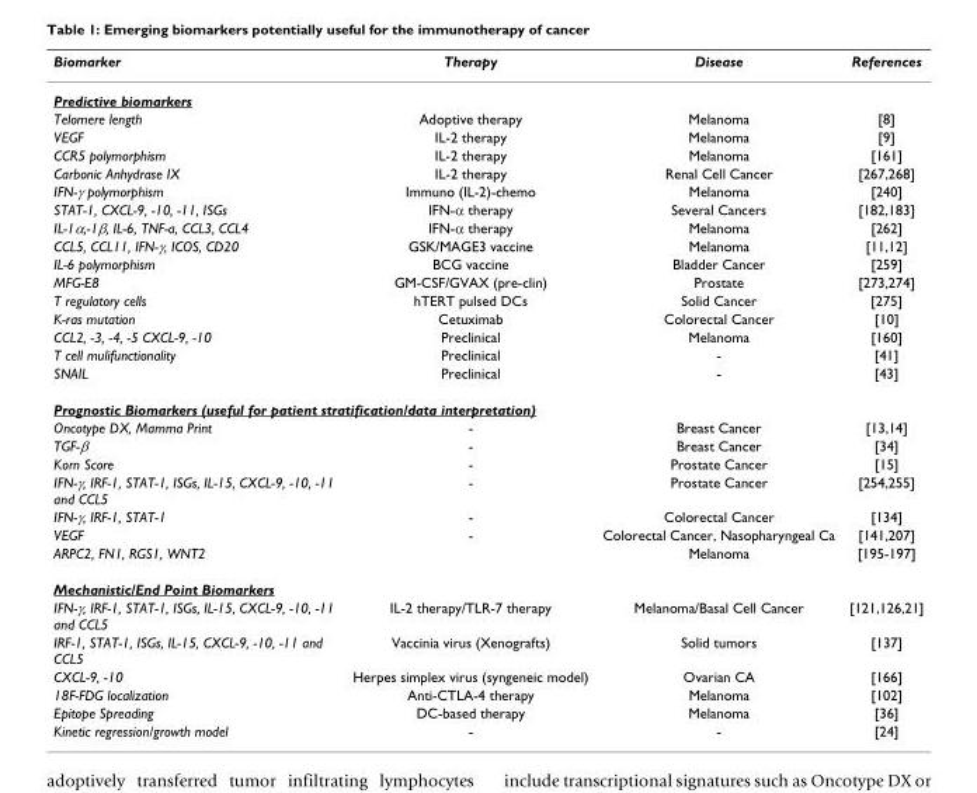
<table><thead><tr><td>Biomarker</td><td>Therapy</td><td>Disease</td><td>References</td></tr></thead><tbody><tr><td colspan="4">Predictive biomarkers</td></tr><tr><td>Telomere length</td><td>Adoptive therapy</td><td>Melanoma</td><td>[8]</td></tr><tr><td>VEGF</td><td>IL-2 therapy</td><td>Melanoma</td><td>[9]</td></tr><tr><td>CCR5 polymorphism</td><td>IL-2 therapy</td><td>Melanoma</td><td>[161]</td></tr><tr><td>Carbonic Anhydrase IX</td><td>IL-2 therapy</td><td>Renal Cell Cancer</td><td>[267,268]</td></tr><tr><td>IFN-γ polymorphism</td><td>Immuno (IL-2)-chemo</td><td>Melanoma</td><td>[240]</td></tr><tr><td>STAT-1, CXCL-9, -10, -11, ISGs</td><td>IFN-α therapy</td><td>Several Cancers</td><td>[182,183]</td></tr><tr><td>IL-1α,-1β, IL-6, TNF-a, CCL3, CCL4</td><td>IFN-α therapy</td><td>Melanoma</td><td>[262]</td></tr><tr><td>CCL5, CCL11, IFN-γ, ICOS, CD20</td><td>GSK/MAGE3 vaccine</td><td>Melanoma</td><td>[11,12]</td></tr><tr><td>IL-6 polymorphism</td><td>BCG vaccine</td><td>Bladder Cancer</td><td>[259]</td></tr><tr><td>MFG-E8</td><td>GM-CSF/GVAX (pre-clin)</td><td>Prostate</td><td>[273,274]</td></tr><tr><td>T regulatory cells</td><td>hTERT pulsed DCs</td><td>Solid Cancer</td><td>[275]</td></tr><tr><td>K-ras mutation</td><td>Cetuximab</td><td>Colorectal Cancer</td><td>[10]</td></tr><tr><td>CCL2, -3, -4, -5 CXCL-9, -10</td><td>Preclinical</td><td>Melanoma</td><td>[160]</td></tr><tr><td>T cell mulifunctionality</td><td>Preclinical</td><td>-</td><td>[41]</td></tr><tr><td>SNAIL</td><td>Preclinical</td><td>-</td><td>[43]</td></tr><tr><td colspan="4">Prognostic Biomarkers (useful for patient stratification/data interpretation)</td></tr><tr><td>Oncotype DX, Mamma Print</td><td>-</td><td>Breast Cancer</td><td>[13,14]</td></tr><tr><td>TGF-β</td><td>-</td><td>Breast Cancer</td><td>[34]</td></tr><tr><td>Korn Score</td><td>-</td><td>Prostate Cancer</td><td>[15]</td></tr><tr><td>IFN-γ, IRF-1, STAT-1, ISGs, IL-15, CXCL-9, -10, -11 and CCL5</td><td>-</td><td>Prostate Cancer</td><td>[254,255]</td></tr><tr><td>IFN-γ, IRF-1, STAT-1</td><td>-</td><td>Colorectal Cancer</td><td>[134]</td></tr><tr><td>VEGF</td><td>-</td><td>Colorectal Cancer, Nasopharyngeal Ca</td><td>[141,207]</td></tr><tr><td>ARPC2, FN1, RGS1, WNT2</td><td></td><td>Melanoma</td><td>[195-197]</td></tr><tr><td colspan="4">Mechanistic/End Point Biomarkers</td></tr><tr><td>IFN-γ, IRF-1, STAT-1, ISGs, IL-15, CXCL-9, -10, -11 and CCL5</td><td>IL-2 therapy/TLR-7 therapy</td><td>Melanoma/Basal Cell Cancer</td><td>[121,126,21]</td></tr><tr><td>IRF-1, STAT-1, ISGs, IL-15, CXCL-9, -10, -11 and CCL5</td><td>Vaccinia virus (Xenografts)</td><td>Solid tumors</td><td>[137]</td></tr><tr><td>CXCL-9, -10</td><td>Herpes simplex virus (syngeneic model)</td><td>Ovarian CA</td><td>[166]</td></tr><tr><td>18F-FDG localization</td><td>Anti-CTLA-4 therapy</td><td>Melanoma</td><td>[102]</td></tr><tr><td>Epitope Spreading</td><td>DC-based therapy</td><td>Melanoma</td><td>[36]</td></tr><tr><td>Kinetic regression/growth model</td><td>-</td><td>-</td><td>[24]</td></tr></tbody></table>